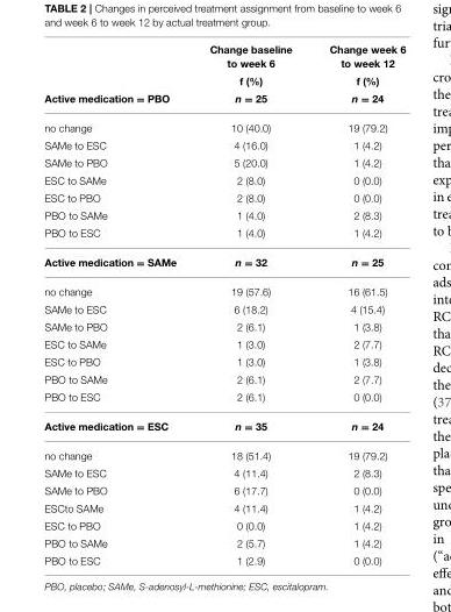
<table><thead><tr><td rowspan="3">Active medication = PBO</td><td rowspan="3">Change baseline to week 6 f (%) n = 25</td><td rowspan="3">Change week 6 to week 12 f (%) n = 24</td></tr><tr></tr><tr></tr></thead><tbody><tr><td>no change</td><td>10 (40.0)</td><td>19 (79.2)</td></tr><tr><td>SAMe to ESC</td><td>4 (16.0)</td><td>1 (4.2)</td></tr><tr><td>SAMe to PBO</td><td>5 (20.0)</td><td>1 (4.2)</td></tr><tr><td>ESC to SAMe</td><td>2 (8.0)</td><td>0 (0.0)</td></tr><tr><td>ESC to PBO</td><td>2 (8.0)</td><td>0 (0.0)</td></tr><tr><td>PBO to SAMe</td><td>1 (4.0)</td><td>2 (8.3)</td></tr><tr><td>PBO to ESC</td><td>1 (4.0)</td><td>1 (4.2)</td></tr><tr><td>Active medication = SAMe</td><td>n = 32</td><td>n = 25</td></tr><tr><td>no change</td><td>19 (57.6)</td><td>16 (61.5)</td></tr><tr><td>SAMe to ESC</td><td>6 (18.2)</td><td>4 (15.4)</td></tr><tr><td>SAMe to PBO</td><td>2 (6.1)</td><td>1 (3.8)</td></tr><tr><td>ESC to SAMe</td><td>1 (3.0)</td><td>2 (7.7)</td></tr><tr><td>ESC to PBO</td><td>1 (3.0)</td><td>1 (3.8)</td></tr><tr><td>PBO to SAMe</td><td>2 (6.1)</td><td>2 (7.7)</td></tr><tr><td>PBO to ESC</td><td>2 (6.1)</td><td>0 (0.0)</td></tr><tr><td>Active medication = ESC</td><td>n = 35</td><td>n = 24</td></tr><tr><td>no change</td><td>18 (51.4)</td><td>19 (79.2)</td></tr><tr><td>SAMe to ESC</td><td>4 (11.4)</td><td>2 (8.3)</td></tr><tr><td>SAMe to PBO</td><td>6 (17.7)</td><td>0 (0.0)</td></tr><tr><td>ESCto SAMe</td><td>4 (11.4)</td><td>1 (4.2)</td></tr><tr><td>ESC to PBO</td><td>0 (0.0)</td><td>1 (4.2)</td></tr><tr><td>PBO to SAMe</td><td>2 (5.7)</td><td>1 (4.2)</td></tr><tr><td>PBO to ESC</td><td>1 (2.9)</td><td>0 (0.0)</td></tr></tbody></table>